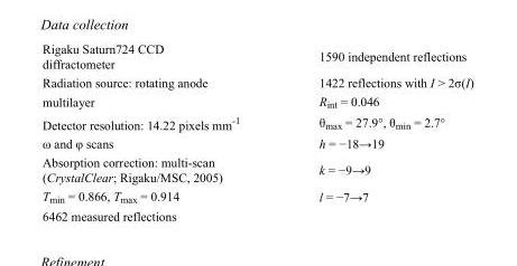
<table><tbody><tr><td>Rigaku Saturn724 CCD diffractometer</td><td>1590 independent reflections</td></tr><tr><td>Radiation source: rotating anode</td><td>1422 reflections with I &gt; 2σ(I)</td></tr><tr><td>multilayer</td><td>R<sub>int</sub> = 0.046</td></tr><tr><td>Detector resolution: 14.22 pixels mm<sup>-1</sup></td><td>θ<sub>max</sub> = 27.9°, θ<sub>min</sub> = 2.7°</td></tr><tr><td>ω and φ scans</td><td>h = −18→19</td></tr><tr><td>Absorption correction: multi-scan (CrystalClear; Rigaku/MSC, 2005)</td><td>k = −9→9</td></tr><tr><td>T<sub>min</sub> = 0.866, T<sub>max</sub> = 0.914</td><td>l = −7→7</td></tr><tr><td>6462 measured reflections</td><td></td></tr></tbody></table>